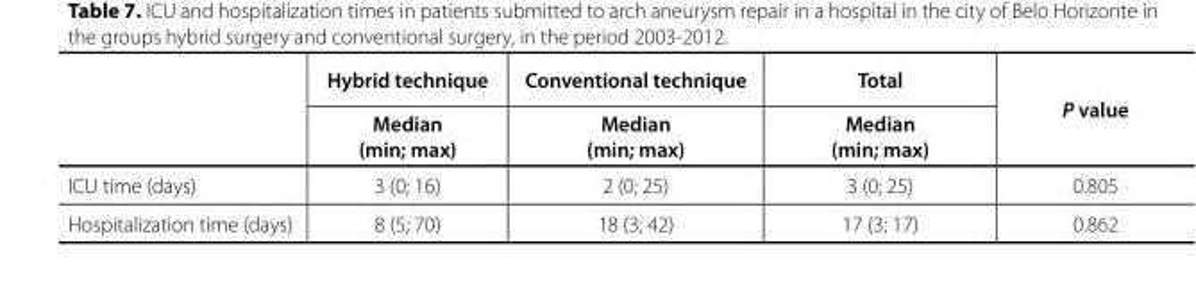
<table><thead><tr><td rowspan="2"></td><td rowspan="2">Hybrid technique Median (min; max)</td><td rowspan="2">Conventional technique Median (min; max)</td><td rowspan="2">Total Median (min; max)</td><td rowspan="2">P value</td></tr><tr></tr></thead><tbody><tr><td>ICU time (days)</td><td>3 (0; 16)</td><td>2 (0; 25)</td><td>3 (0; 25)</td><td>0.805</td></tr><tr><td>Hospitalization time (days)</td><td>8 (5; 70)</td><td>18 (3; 42)</td><td>17 (3; 17)</td><td>0.862</td></tr></tbody></table>